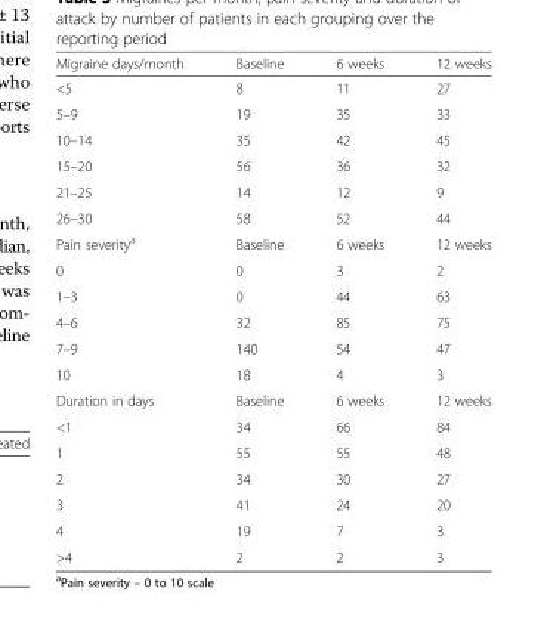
<table><thead><tr><td>Migraine days/month</td><td>Baseline</td><td>6 weeks</td><td>12 weeks</td></tr></thead><tbody><tr><td>&lt;5</td><td>8</td><td>11</td><td>27</td></tr><tr><td>5–9</td><td>19</td><td>35</td><td>33</td></tr><tr><td>10–14</td><td>35</td><td>42</td><td>45</td></tr><tr><td>15–20</td><td>56</td><td>36</td><td>32</td></tr><tr><td>21–25</td><td>14</td><td>12</td><td>9</td></tr><tr><td>26–30</td><td>58</td><td>52</td><td>44</td></tr><tr><td>Pain severity<sup>a</sup></td><td>Baseline</td><td>6 weeks</td><td>12 weeks</td></tr><tr><td>0</td><td>0</td><td>3</td><td>2</td></tr><tr><td>1–3</td><td>0</td><td>44</td><td>63</td></tr><tr><td>4–6</td><td>32</td><td>85</td><td>75</td></tr><tr><td>7–9</td><td>140</td><td>54</td><td>47</td></tr><tr><td>10</td><td>18</td><td>4</td><td>3</td></tr><tr><td>Duration in days</td><td>Baseline</td><td>6 weeks</td><td>12 weeks</td></tr><tr><td>&lt;1</td><td>34</td><td>66</td><td>84</td></tr><tr><td>1</td><td>55</td><td>55</td><td>48</td></tr><tr><td>2</td><td>34</td><td>30</td><td>27</td></tr><tr><td>3</td><td>41</td><td>24</td><td>20</td></tr><tr><td>4</td><td>19</td><td>7</td><td>3</td></tr><tr><td>&gt;4</td><td>2</td><td>2</td><td>3</td></tr></tbody></table>